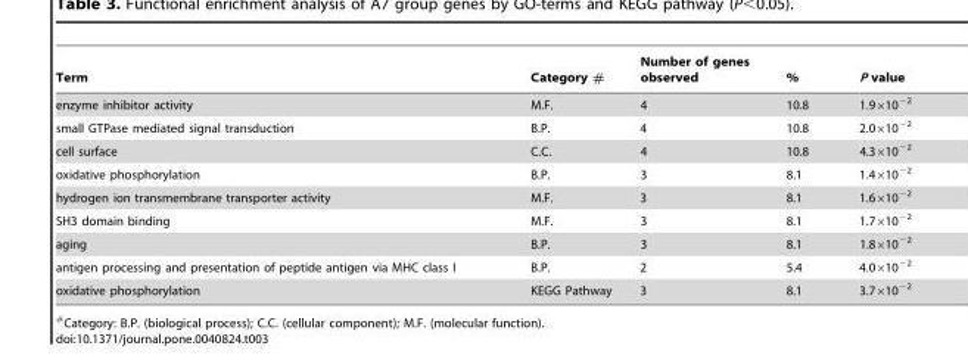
<table><thead><tr><td>Term</td><td>Category #</td><td>Number of genes observed</td><td>%</td><td>P value</td></tr></thead><tbody><tr><td>enzyme inhibitor activity</td><td>M.F.</td><td>4</td><td>10.8</td><td>1.9×10<sup>−2</sup></td></tr><tr><td>small GTPase mediated signal transduction</td><td>B.P.</td><td>4</td><td>10.8</td><td>2.0×10<sup>−2</sup></td></tr><tr><td>cell surface</td><td>C.C.</td><td>4</td><td>10.8</td><td>4.3×10<sup>−2</sup></td></tr><tr><td>oxidative phosphorylation</td><td>B.P.</td><td>3</td><td>8.1</td><td>1.4×10<sup>−2</sup></td></tr><tr><td>hydrogen ion transmembrane transporter activity</td><td>M.F.</td><td>3</td><td>8.1</td><td>1.6×10<sup>−2</sup></td></tr><tr><td>SH3 domain binding</td><td>M.F.</td><td>3</td><td>8.1</td><td>1.7×10<sup>−2</sup></td></tr><tr><td>aging</td><td>B.P.</td><td>3</td><td>8.1</td><td>1.8×10<sup>−2</sup></td></tr><tr><td>antigen processing and presentation of peptide antigen via MHC class I</td><td>B.P.</td><td>2</td><td>5.4</td><td>4.0×10<sup>−2</sup></td></tr><tr><td>oxidative phosphorylation</td><td>KEGG Pathway</td><td>3</td><td>8.1</td><td>3.7×10<sup>−2</sup></td></tr></tbody></table>